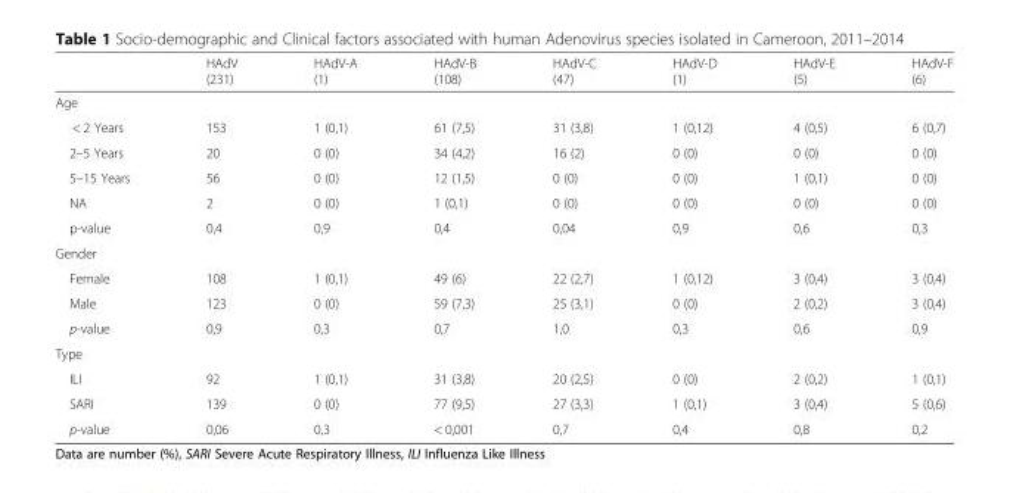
<table><thead><tr><td></td><td>HAdV (231)</td><td>HAdV-A (1)</td><td>HAdV-B (108)</td><td>HAdV-C (47)</td><td>HAdV-D (1)</td><td>HAdV-E (5)</td><td>HAdV-F (6)</td></tr></thead><tbody><tr><td colspan="8">Age</td></tr><tr><td>&lt; 2 Years</td><td>153</td><td>1 (0,1)</td><td>61 (7,5)</td><td>31 (3,8)</td><td>1 (0,12)</td><td>4 (0,5)</td><td>6 (0,7)</td></tr><tr><td>2–5 Years</td><td>20</td><td>0 (0)</td><td>34 (4,2)</td><td>16 (2)</td><td>0 (0)</td><td>0 (0)</td><td>0 (0)</td></tr><tr><td>5–15 Years</td><td>56</td><td>0 (0)</td><td>12 (1,5)</td><td>0 (0)</td><td>0 (0)</td><td>1 (0,1)</td><td>0 (0)</td></tr><tr><td>NA</td><td>2</td><td>0 (0)</td><td>1 (0,1)</td><td>0 (0)</td><td>0 (0)</td><td>0 (0)</td><td>0 (0)</td></tr><tr><td>p-value</td><td>0,4</td><td>0,9</td><td>0,4</td><td>0,04</td><td>0,9</td><td>0,6</td><td>0,3</td></tr><tr><td colspan="8">Gender</td></tr><tr><td>Female</td><td>108</td><td>1 (0,1)</td><td>49 (6)</td><td>22 (2,7)</td><td>1 (0,12)</td><td>3 (0,4)</td><td>3 (0,4)</td></tr><tr><td>Male</td><td>123</td><td>0 (0)</td><td>59 (7,3)</td><td>25 (3,1)</td><td>0 (0)</td><td>2 (0,2)</td><td>3 (0,4)</td></tr><tr><td>p-value</td><td>0,9</td><td>0,3</td><td>0,7</td><td>1,0</td><td>0,3</td><td>0,6</td><td>0,9</td></tr><tr><td colspan="8">Type</td></tr><tr><td>ILI</td><td>92</td><td>1 (0,1)</td><td>31 (3,8)</td><td>20 (2,5)</td><td>0 (0)</td><td>2 (0,2)</td><td>1 (0,1)</td></tr><tr><td>SARI</td><td>139</td><td>0 (0)</td><td>77 (9,5)</td><td>27 (3,3)</td><td>1 (0,1)</td><td>3 (0,4)</td><td>5 (0,6)</td></tr><tr><td>p-value</td><td>0,06</td><td>0,3</td><td>&lt; 0,001</td><td>0,7</td><td>0,4</td><td>0,8</td><td>0,2</td></tr></tbody></table>